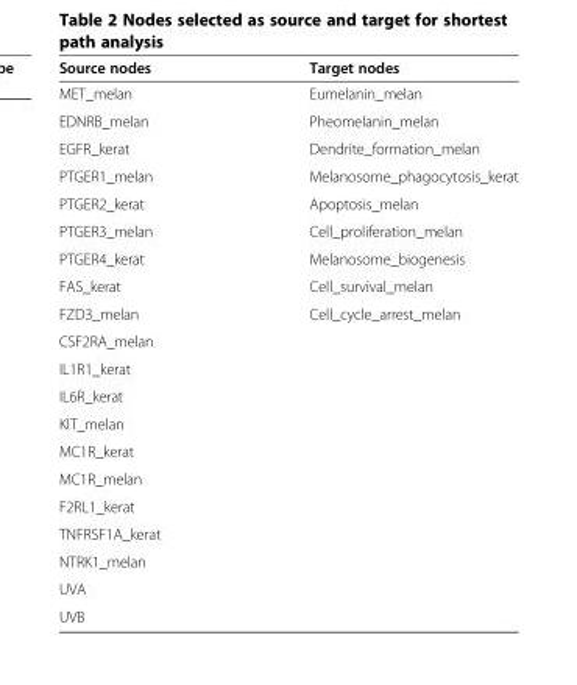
<table><thead><tr><td>Source nodes</td><td>Target nodes</td></tr></thead><tbody><tr><td>MET_melan</td><td>Eumelanin_melan</td></tr><tr><td>EDNRB_melan</td><td>Pheomelanin_melan</td></tr><tr><td>EGFR_kerat</td><td>Dendrite_formation_melan</td></tr><tr><td>PTGER1_melan</td><td>Melanosome_phagocytosis_kerat</td></tr><tr><td>PTGER2_kerat</td><td>Apoptosis_melan</td></tr><tr><td>PTGER3_melan</td><td>Cell_proliferation_melan</td></tr><tr><td>PTGER4_kerat</td><td>Melanosome_biogenesis</td></tr><tr><td>FAS_kerat</td><td>Cell_survival_melan</td></tr><tr><td>FZD3_melan</td><td>Cell_cycle_arrest_melan</td></tr><tr><td colspan="2">CSF2RA_melan</td></tr><tr><td colspan="2">IL1R1_kerat</td></tr><tr><td colspan="2">IL6R_kerat</td></tr><tr><td colspan="2">KIT_melan</td></tr><tr><td colspan="2">MC1R_kerat</td></tr><tr><td colspan="2">MC1R_melan</td></tr><tr><td colspan="2">F2RL1_kerat</td></tr><tr><td colspan="2">TNFRSF1A_kerat</td></tr><tr><td colspan="2">NTRK1_melan</td></tr><tr><td colspan="2">UVA</td></tr><tr><td>UVB</td><td></td></tr></tbody></table>